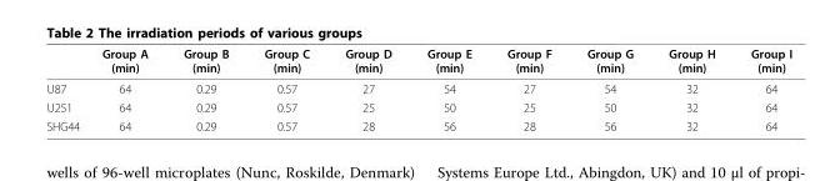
<table><thead><tr><td></td><td>Group A (min)</td><td>Group B (min)</td><td>Group C (min)</td><td>Group D (min)</td><td>Group E (min)</td><td>Group F (min)</td><td>Group G (min)</td><td>Group H (min)</td><td>Group I (min)</td></tr></thead><tbody><tr><td>U87</td><td>64</td><td>0.29</td><td>0.57</td><td>27</td><td>54</td><td>27</td><td>54</td><td>32</td><td>64</td></tr><tr><td>U251</td><td>64</td><td>0.29</td><td>0.57</td><td>25</td><td>50</td><td>25</td><td>50</td><td>32</td><td>64</td></tr><tr><td>SHG44</td><td>64</td><td>0.29</td><td>0.57</td><td>28</td><td>56</td><td>28</td><td>56</td><td>32</td><td>64</td></tr></tbody></table>